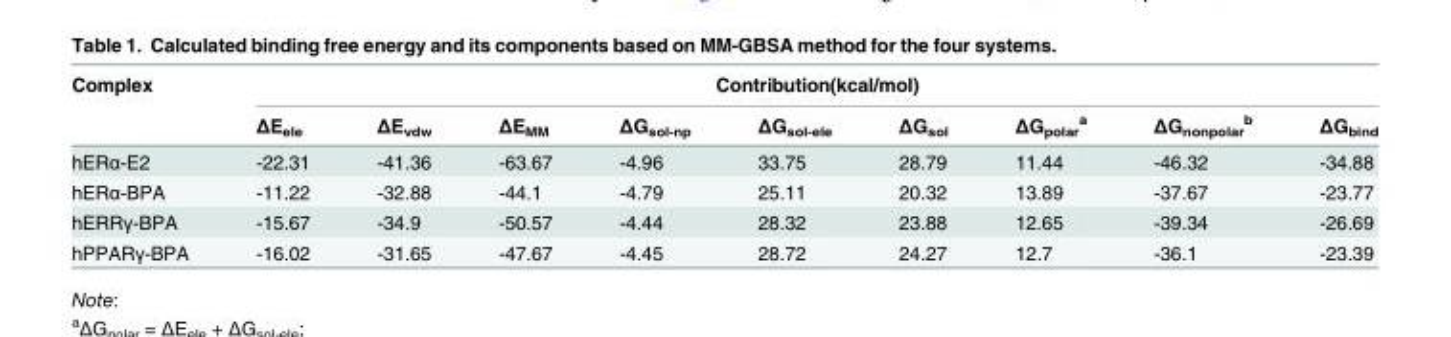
<table><thead><tr><td rowspan="2">Complex</td><td colspan="9">Contribution(kcal/mol)</td></tr><tr><td>ΔE<sub>ele</sub></td><td>ΔE<sub>vdw</sub></td><td>ΔE<sub>MM</sub></td><td>ΔG<sub>sol-np</sub></td><td>ΔG<sub>sol-ele</sub></td><td>ΔG<sub>sol</sub></td><td>ΔG<sub>polar</sub> <sup>a</sup></td><td>ΔG<sub>nonpolar</sub> <sup>b</sup></td><td>ΔG<sub>bind</sub></td></tr></thead><tbody><tr><td>hERα-E2</td><td>-22.31</td><td>-41.36</td><td>-63.67</td><td>-4.96</td><td>33.75</td><td>28.79</td><td>11.44</td><td>-46.32</td><td>-34.88</td></tr><tr><td>hERα-BPA</td><td>-11.22</td><td>-32.88</td><td>-44.1</td><td>-4.79</td><td>25.11</td><td>20.32</td><td>13.89</td><td>-37.67</td><td>-23.77</td></tr><tr><td>hERRγ-BPA</td><td>-15.67</td><td>-34.9</td><td>-50.57</td><td>-4.44</td><td>28.32</td><td>23.88</td><td>12.65</td><td>-39.34</td><td>-26.69</td></tr><tr><td>hPPARγ-BPA</td><td>-16.02</td><td>-31.65</td><td>-47.67</td><td>-4.45</td><td>28.72</td><td>24.27</td><td>12.7</td><td>-36.1</td><td>-23.39</td></tr></tbody></table>